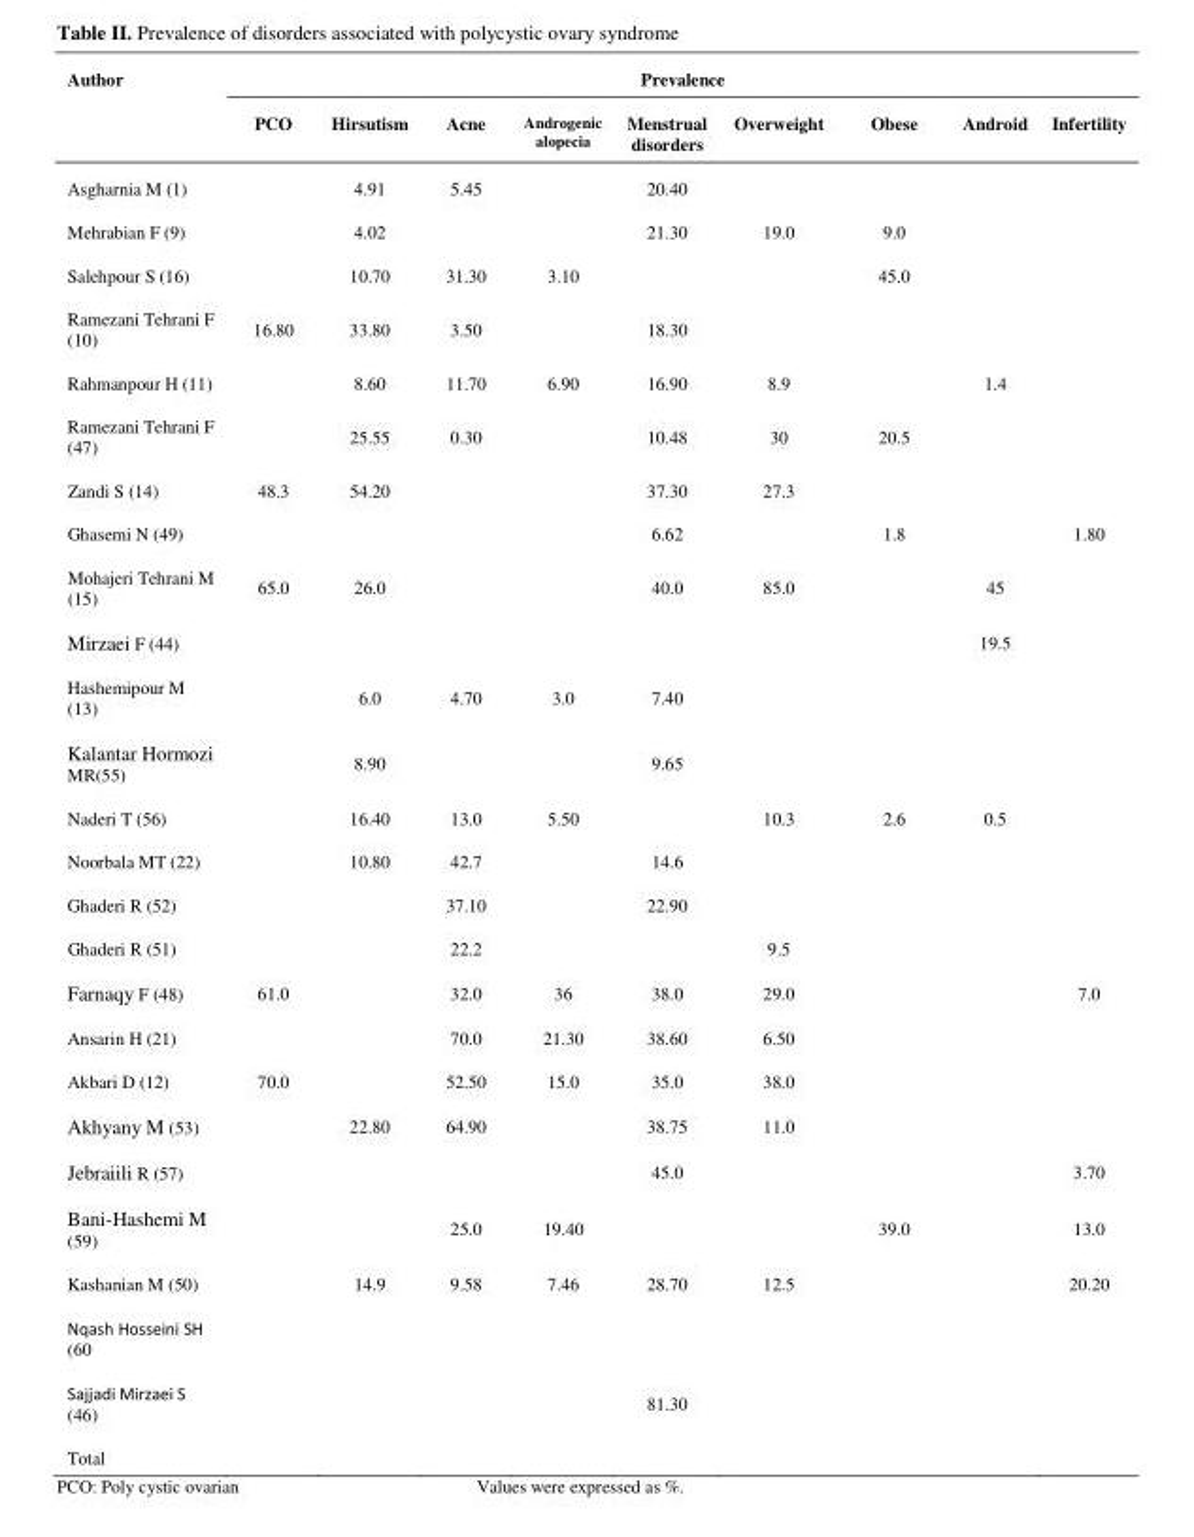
<table><thead><tr><td rowspan="2">Author</td><td colspan="9">Prevalence</td></tr><tr><td>PCO</td><td>Hirsutism</td><td>Acne</td><td>Androgenic alopecia</td><td>Menstrual disorders</td><td>Overweight</td><td>Obese</td><td>Android</td><td>Infertility</td></tr></thead><tbody><tr><td>Asgharnia M (1)</td><td></td><td>4.91</td><td>5.45</td><td></td><td>20.40</td><td></td><td></td><td></td><td></td></tr><tr><td>Mehrabian F (9)</td><td></td><td>4.02</td><td></td><td></td><td>21.30</td><td>19.0</td><td>9.0</td><td></td><td></td></tr><tr><td>Salehpour S (16)</td><td></td><td>10.70</td><td>31.30</td><td>3.10</td><td></td><td></td><td>45.0</td><td></td><td></td></tr><tr><td>Ramezani Tehrani F (10)</td><td>16.80</td><td>33.80</td><td>3.50</td><td></td><td>18.30</td><td></td><td></td><td></td><td></td></tr><tr><td>Rahmanpour H (11)</td><td></td><td>8.60</td><td>11.70</td><td>6.90</td><td>16.90</td><td>8.9</td><td></td><td>1.4</td><td></td></tr><tr><td>Ramezani Tehrani F (47)</td><td></td><td>25.55</td><td>0.30</td><td></td><td>10.48</td><td>30</td><td>20.5</td><td></td><td></td></tr><tr><td>Zandi S (14)</td><td>48.3</td><td>54.20</td><td></td><td></td><td>37.30</td><td>27.3</td><td></td><td></td><td></td></tr><tr><td>Ghasemi N (49)</td><td></td><td></td><td></td><td></td><td>6.62</td><td></td><td>1.8</td><td></td><td>1.80</td></tr><tr><td>Mohajeri Tehrani M (15)</td><td>65.0</td><td>26.0</td><td></td><td></td><td>40.0</td><td>85.0</td><td></td><td>45</td><td></td></tr><tr><td>Mirzaei F (44)</td><td></td><td></td><td></td><td></td><td></td><td></td><td></td><td>19.5</td><td></td></tr><tr><td>Hashemipour M (13)</td><td></td><td>6.0</td><td>4.70</td><td>3.0</td><td>7.40</td><td></td><td></td><td></td><td></td></tr><tr><td>Kalantar Hormozi MR(55)</td><td></td><td>8.90</td><td></td><td></td><td>9.65</td><td></td><td></td><td></td><td></td></tr><tr><td>Naderi T (56)</td><td></td><td>16.40</td><td>13.0</td><td>5.50</td><td></td><td>10.3</td><td>2.6</td><td>0.5</td><td></td></tr><tr><td>Noorbala MT (22)</td><td></td><td>10.80</td><td>42.7</td><td></td><td>14.6</td><td></td><td></td><td></td><td></td></tr><tr><td>Ghaderi R (52)</td><td></td><td></td><td>37.10</td><td></td><td>22.90</td><td></td><td></td><td></td><td></td></tr><tr><td>Ghaderi R (51)</td><td></td><td></td><td>22.2</td><td></td><td></td><td>9.5</td><td></td><td></td><td></td></tr><tr><td>Farnaqy F (48)</td><td>61.0</td><td></td><td>32.0</td><td>36</td><td>38.0</td><td>29.0</td><td></td><td></td><td>7.0</td></tr><tr><td>Ansarin H (21)</td><td></td><td></td><td>70.0</td><td>21.30</td><td>38.60</td><td>6.50</td><td></td><td></td><td></td></tr><tr><td>Akbari D (12)</td><td>70.0</td><td></td><td>52.50</td><td>15.0</td><td>35.0</td><td>38.0</td><td></td><td></td><td></td></tr><tr><td>Akhyany M (53)</td><td></td><td>22.80</td><td>64.90</td><td></td><td>38.75</td><td>11.0</td><td></td><td></td><td></td></tr><tr><td>Jebraiili R (57)</td><td></td><td></td><td></td><td></td><td>45.0</td><td></td><td></td><td></td><td>3.70</td></tr><tr><td>Bani-Hashemi M (59)</td><td></td><td></td><td>25.0</td><td>19.40</td><td></td><td></td><td>39.0</td><td></td><td>13.0</td></tr><tr><td>Kashanian M (50)</td><td></td><td>14.9</td><td>9.58</td><td>7.46</td><td>28.70</td><td>12.5</td><td></td><td></td><td>20.20</td></tr><tr><td colspan="10">Nqash Hosseini SH (60</td></tr><tr><td>Sajjadi Mirzaei S (46)</td><td></td><td></td><td></td><td></td><td>81.30</td><td colspan="3"></td><td></td></tr><tr><td>Total</td><td></td><td></td><td></td><td></td><td></td><td colspan="3"></td><td></td></tr></tbody></table>